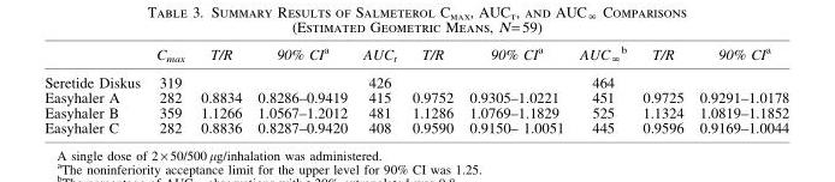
<table><thead><tr><td></td><td>C<sub>max</sub></td><td>T/R</td><td>90% CI<sup>a</sup></td><td>AUC<sub>t</sub></td><td>T/R</td><td>90% CI<sup>a</sup></td><td>AUC<sub>∞</sub> <sup>b</sup></td><td>T/R</td><td>90% CI<sup>a</sup></td></tr></thead><tbody><tr><td>Seretide Diskus</td><td>319</td><td></td><td></td><td>426</td><td></td><td></td><td>464</td><td></td><td></td></tr><tr><td>Easyhaler A</td><td>282</td><td>0.8834</td><td>0.8286–0.9419</td><td>415</td><td>0.9752</td><td>0.9305–1.0221</td><td>451</td><td>0.9725</td><td>0.9291–1.0178</td></tr><tr><td>Easyhaler B</td><td>359</td><td>1.1266</td><td>1.0567–1.2012</td><td>481</td><td>1.1286</td><td>1.0769–1.1829</td><td>525</td><td>1.1324</td><td>1.0819–1.1852</td></tr><tr><td>Easyhaler C</td><td>282</td><td>0.8836</td><td>0.8287–0.9420</td><td>408</td><td>0.9590</td><td>0.9150– 1.0051</td><td>445</td><td>0.9596</td><td>0.9169–1.0044</td></tr></tbody></table>